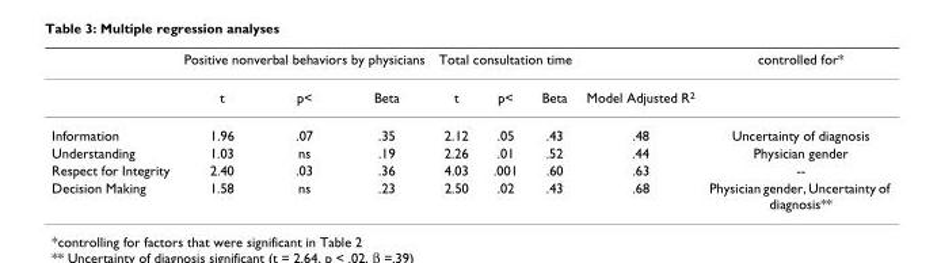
<table><thead><tr><td rowspan="2"></td><td colspan="3">Positive nonverbal behaviors by physicians</td><td colspan="3">Total consultation time</td><td rowspan="2">Model Adjusted R<sup>2</sup></td><td rowspan="2">controlled for*</td></tr><tr><td>t</td><td>p&lt;</td><td>Beta</td><td>t</td><td>p&lt;</td><td>Beta</td></tr></thead><tbody><tr><td>Information</td><td>1.96</td><td>.07</td><td>.35</td><td>2.12</td><td>.05</td><td>.43</td><td>.48</td><td>Uncertainty of diagnosis</td></tr><tr><td>Understanding</td><td>1.03</td><td>ns</td><td>.19</td><td>2.26</td><td>.01</td><td>.52</td><td>.44</td><td>Physician gender</td></tr><tr><td>Respect for Integrity</td><td>2.40</td><td>.03</td><td>.36</td><td>4.03</td><td>.001</td><td>.60</td><td>.63</td><td>--</td></tr><tr><td>Decision Making</td><td>1.58</td><td>ns</td><td>.23</td><td>2.50</td><td>.02</td><td>.43</td><td>.68</td><td>Physician gender, Uncertainty of diagnosis**</td></tr></tbody></table>